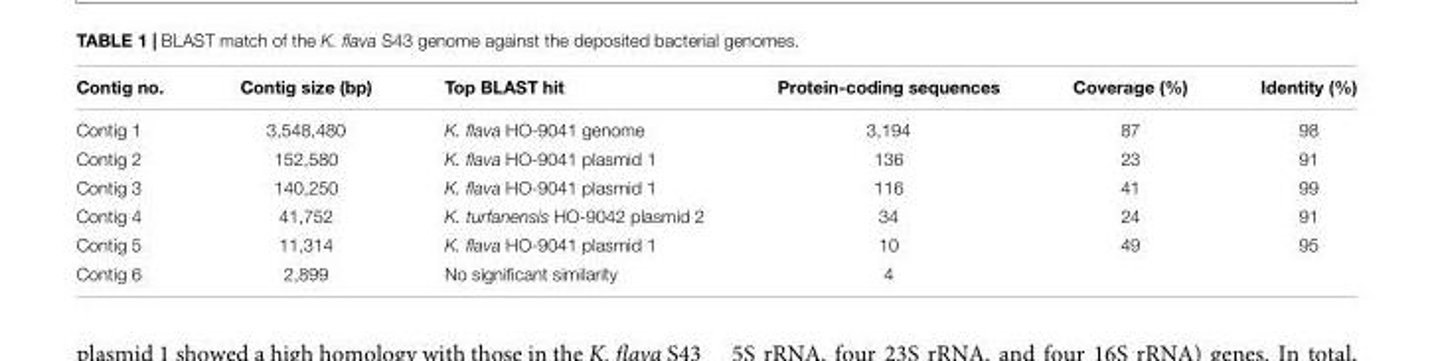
<table><thead><tr><td>Contig no.</td><td>Contig size (bp)</td><td>Top BLAST hit</td><td>Protein-coding sequences</td><td>Coverage (%)</td><td>Identity (%)</td></tr></thead><tbody><tr><td>Contig 1</td><td>3,548,480</td><td>K. flava HO-9041 genome</td><td>3,194</td><td>87</td><td>98</td></tr><tr><td>Contig 2</td><td>152,580</td><td>K. flava HO-9041 plasmid 1</td><td>136</td><td>23</td><td>91</td></tr><tr><td>Contig 3</td><td>140,250</td><td>K. flava HO-9041 plasmid 1</td><td>116</td><td>41</td><td>99</td></tr><tr><td>Contig 4</td><td>41,752</td><td>K. turfanensis HO-9042 plasmid 2</td><td>34</td><td>24</td><td>91</td></tr><tr><td>Contig 5</td><td>11,314</td><td>K. flava HO-9041 plasmid 1</td><td>10</td><td>49</td><td>95</td></tr><tr><td>Contig 6</td><td>2,899</td><td>No significant similarity</td><td>4</td><td></td><td></td></tr></tbody></table>